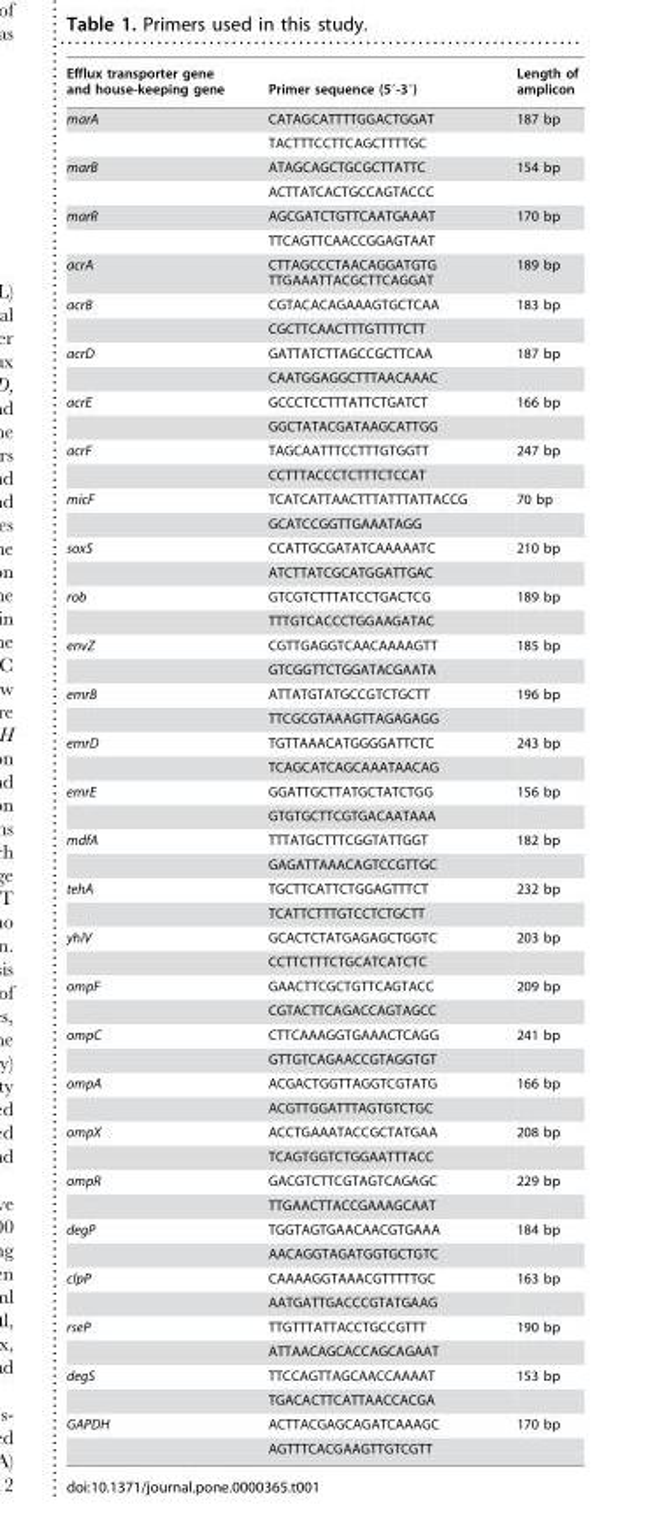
<table><thead><tr><td>Efflux transporter gene and house-keeping gene</td><td>Primer sequence (5′-3′)</td><td>Length of amplicon</td></tr></thead><tbody><tr><td rowspan="2">marA</td><td>CATAGCATTTTGGACTGGAT</td><td>187 bp</td></tr><tr><td>TACTTTCCTTCAGCTTTTGC</td><td></td></tr><tr><td rowspan="2">marB</td><td>ATAGCAGCTGCGCTTATTC</td><td>154 bp</td></tr><tr><td>ACTTATCACTGCCAGTACCC</td><td></td></tr><tr><td rowspan="2">marR</td><td>AGCGATCTGTTCAATGAAAT</td><td>170 bp</td></tr><tr><td>TTCAGTTCAACCGGAGTAAT</td><td></td></tr><tr><td>acrA</td><td>CTTAGCCCTAACAGGATGTG TTGAAATTACGCTTCAGGAT</td><td>189 bp</td></tr><tr><td rowspan="2">acrB</td><td>CGTACACAGAAAGTGCTCAA</td><td>183 bp</td></tr><tr><td>CGCTTCAACTTTGTTTTCTT</td><td></td></tr><tr><td rowspan="2">acrD</td><td>GATTATCTTAGCCGCTTCAA</td><td>187 bp</td></tr><tr><td>CAATGGAGGCTTTAACAAAC</td><td></td></tr><tr><td rowspan="2">acrE</td><td>GCCCTCCTTTATTCTGATCT</td><td>166 bp</td></tr><tr><td>GGCTATACGATAAGCATTGG</td><td></td></tr><tr><td rowspan="2">acrF</td><td>TAGCAATTTCCTTTGTGGTT</td><td>247 bp</td></tr><tr><td>CCTTTACCCTCTTTCTCCAT</td><td></td></tr><tr><td rowspan="2">micF</td><td>TCATCATTAACTTTATTTATTACCG</td><td>70 bp</td></tr><tr><td>GCATCCGGTTGAAATAGG</td><td></td></tr><tr><td rowspan="2">soxS</td><td>CCATTGCGATATCAAAAATC</td><td>210 bp</td></tr><tr><td>ATCTTATCGCATGGATTGAC</td><td></td></tr><tr><td rowspan="2">rob</td><td>GTCGTCTTTATCCTGACTCG</td><td>189 bp</td></tr><tr><td>TTTGTCACCCTGGAAGATAC</td><td></td></tr><tr><td rowspan="2">envZ</td><td>CGTTGAGGTCAACAAAAGTT</td><td>185 bp</td></tr><tr><td>GTCGGTTCTGGATACGAATA</td><td></td></tr><tr><td rowspan="2">emrB</td><td>ATTATGTATGCCGTCTGCTT</td><td>196 bp</td></tr><tr><td>TTCGCGTAAAGTTAGAGAGG</td><td></td></tr><tr><td rowspan="2">emrD</td><td>TGTTAAACATGGGGATTCTC</td><td>243 bp</td></tr><tr><td>TCAGCATCAGCAAATAACAG</td><td></td></tr><tr><td rowspan="2">emrE</td><td>GGATTGCTTATGCTATCTGG</td><td>156 bp</td></tr><tr><td>GTGTGCTTCGTGACAATAAA</td><td></td></tr><tr><td rowspan="2">mdfA</td><td>TTTATGCTTTCGGTATTGGT</td><td>182 bp</td></tr><tr><td>GAGATTAAACAGTCCGTTGC</td><td></td></tr><tr><td rowspan="2">tehA</td><td>TGCTTCATTCTGGAGTTTCT</td><td>232 bp</td></tr><tr><td>TCATTCTTTGTCCTCTGCTT</td><td></td></tr><tr><td rowspan="2">yhiV</td><td>GCACTCTATGAGAGCTGGTC</td><td>203 bp</td></tr><tr><td>CCTTCTTTCTGCATCATCTC</td><td></td></tr><tr><td rowspan="2">ompF</td><td>GAACTTCGCTGTTCAGTACC</td><td>209 bp</td></tr><tr><td>CGTACTTCAGACCAGTAGCC</td><td></td></tr><tr><td rowspan="2">ompC</td><td>CTTCAAAGGTGAAACTCAGG</td><td>241 bp</td></tr><tr><td>GTTGTCAGAACCGTAGGTGT</td><td></td></tr><tr><td rowspan="2">ompA</td><td>ACGACTGGTTAGGTCGTATG</td><td>166 bp</td></tr><tr><td>ACGTTGGATTTAGTGTCTGC</td><td></td></tr><tr><td rowspan="2">ompX</td><td>ACCTGAAATACCGCTATGAA</td><td>208 bp</td></tr><tr><td>TCAGTGGTCTGGAATTTACC</td><td></td></tr><tr><td rowspan="2">ompR</td><td>GACGTCTTCGTAGTCAGAGC</td><td>229 bp</td></tr><tr><td>TTGAACTTACCGAAAGCAAT</td><td></td></tr><tr><td rowspan="2">degP</td><td>TGGTAGTGAACAACGTGAAA</td><td>184 bp</td></tr><tr><td>AACAGGTAGATGGTGCTGTC</td><td></td></tr><tr><td rowspan="2">clpP</td><td>CAAAAGGTAAACGTTTTTGC</td><td>163 bp</td></tr><tr><td>AATGATTGACCCGTATGAAG</td><td></td></tr><tr><td rowspan="2">rseP</td><td>TTGTTTATTACCTGCCGTTT</td><td>190 bp</td></tr><tr><td>ATTAACAGCACCAGCAGAAT</td><td></td></tr><tr><td rowspan="2">degS</td><td>TTCCAGTTAGCAACCAAAAT</td><td>153 bp</td></tr><tr><td>TGACACTTCATTAACCACGA</td><td></td></tr><tr><td rowspan="2">GAPDH</td><td>ACTTACGAGCAGATCAAAGC</td><td>170 bp</td></tr><tr><td>AGTTTCACGAAGTTGTCGTT</td><td></td></tr></tbody></table>